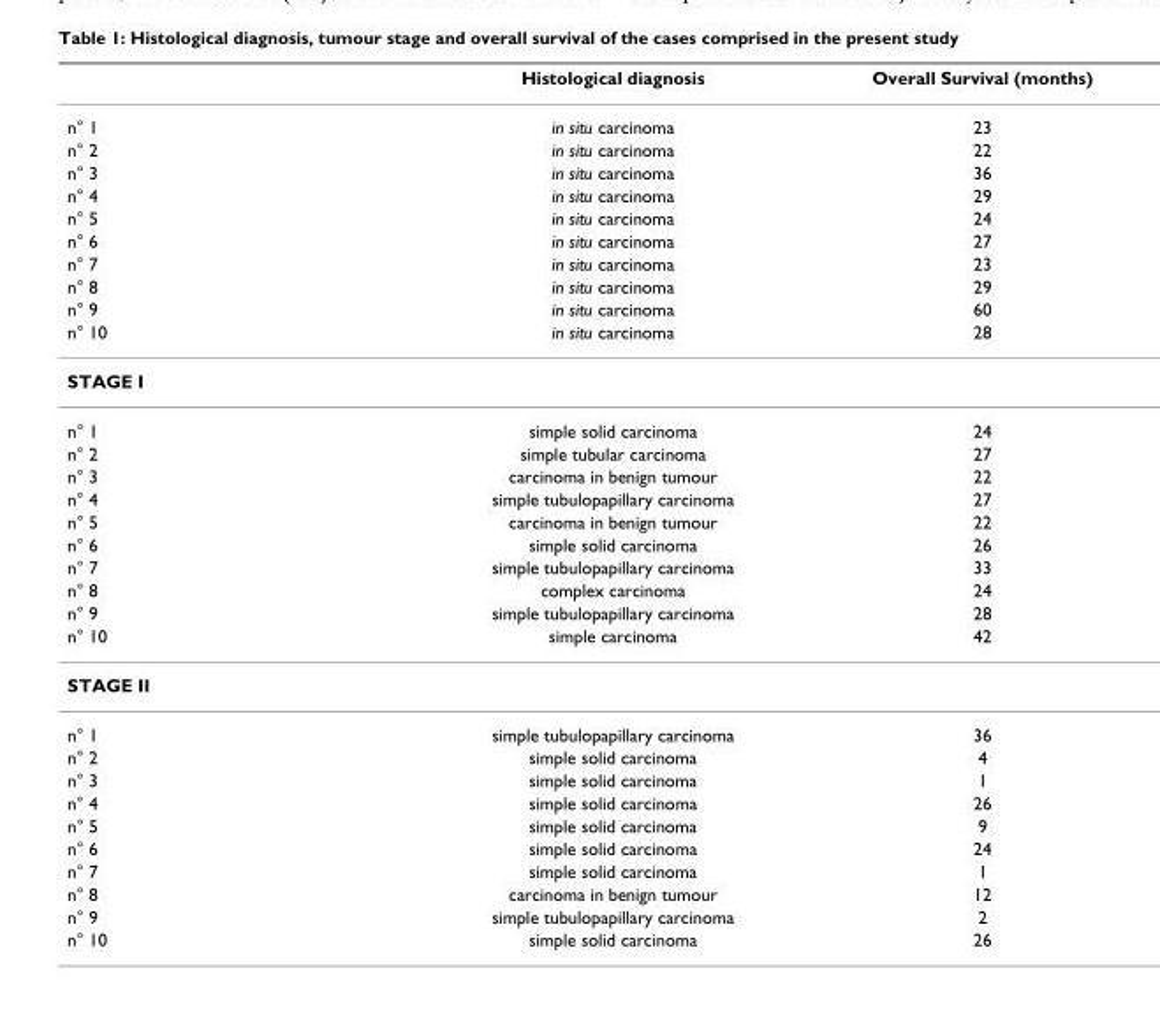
<table><thead><tr><td></td><td>Histological diagnosis</td><td>Overall Survival (months)</td></tr></thead><tbody><tr><td>n° 1</td><td>in situ carcinoma</td><td>23</td></tr><tr><td>n° 2</td><td>in situ carcinoma</td><td>22</td></tr><tr><td>n° 3</td><td>in situ carcinoma</td><td>36</td></tr><tr><td>n° 4</td><td>in situ carcinoma</td><td>29</td></tr><tr><td>n° 5</td><td>in situ carcinoma</td><td>24</td></tr><tr><td>n° 6</td><td>in situ carcinoma</td><td>27</td></tr><tr><td>n° 7</td><td>in situ carcinoma</td><td>23</td></tr><tr><td>n° 8</td><td>in situ carcinoma</td><td>29</td></tr><tr><td>n° 9</td><td>in situ carcinoma</td><td>60</td></tr><tr><td>n° 10</td><td>in situ carcinoma</td><td>28</td></tr><tr><td colspan="3">STAGE I</td></tr><tr><td>n° 1</td><td>simple solid carcinoma</td><td>24</td></tr><tr><td>n° 2</td><td>simple tubular carcinoma</td><td>27</td></tr><tr><td>n° 3</td><td>carcinoma in benign tumour</td><td>22</td></tr><tr><td>n° 4</td><td>simple tubulopapillary carcinoma</td><td>27</td></tr><tr><td>n° 5</td><td>carcinoma in benign tumour</td><td>22</td></tr><tr><td>n° 6</td><td>simple solid carcinoma</td><td>26</td></tr><tr><td>n° 7</td><td>simple tubulopapillary carcinoma</td><td>33</td></tr><tr><td>n° 8</td><td>complex carcinoma</td><td>24</td></tr><tr><td>n° 9</td><td>simple tubulopapillary carcinoma</td><td>28</td></tr><tr><td>n° 10</td><td>simple carcinoma</td><td>42</td></tr><tr><td colspan="3">STAGE II</td></tr><tr><td>n° 1</td><td>simple tubulopapillary carcinoma</td><td>36</td></tr><tr><td>n° 2</td><td>simple solid carcinoma</td><td>4</td></tr><tr><td>n° 3</td><td>simple solid carcinoma</td><td>1</td></tr><tr><td>n° 4</td><td>simple solid carcinoma</td><td>26</td></tr><tr><td>n° 5</td><td>simple solid carcinoma</td><td>9</td></tr><tr><td>n° 6</td><td>simple solid carcinoma</td><td>24</td></tr><tr><td>n° 7</td><td>simple solid carcinoma</td><td>1</td></tr><tr><td>n° 8</td><td>carcinoma in benign tumour</td><td>12</td></tr><tr><td>n° 9</td><td>simple tubulopapillary carcinoma</td><td>2</td></tr><tr><td>n° 10</td><td>simple solid carcinoma</td><td>26</td></tr></tbody></table>